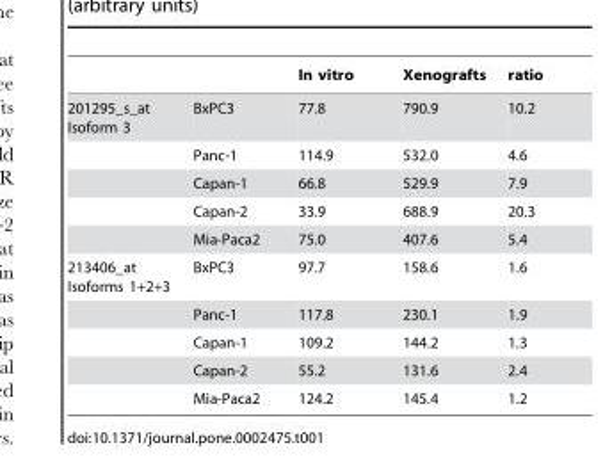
<table><thead><tr><td></td><td></td><td>In vitro</td><td>Xenografts</td><td>ratio</td></tr></thead><tbody><tr><td rowspan="5">201295_s_at Isoform 3</td><td>BxPC3</td><td>77.8</td><td>790.9</td><td>10.2</td></tr><tr><td>Panc-1</td><td>114.9</td><td>532.0</td><td>4.6</td></tr><tr><td>Capan-1</td><td>66.8</td><td>529.9</td><td>7.9</td></tr><tr><td>Capan-2</td><td>33.9</td><td>688.9</td><td>20.3</td></tr><tr><td>Mia-Paca2</td><td>75.0</td><td>407.6</td><td>5.4</td></tr><tr><td rowspan="5">213406_at Isoforms 1+2+3</td><td>BxPC3</td><td>97.7</td><td>158.6</td><td>1.6</td></tr><tr><td>Panc-1</td><td>117.8</td><td>230.1</td><td>1.9</td></tr><tr><td>Capan-1</td><td>109.2</td><td>144.2</td><td>1.3</td></tr><tr><td>Capan-2</td><td>55.2</td><td>131.6</td><td>2.4</td></tr><tr><td>Mia-Paca2</td><td>124.2</td><td>145.4</td><td>1.2</td></tr></tbody></table>